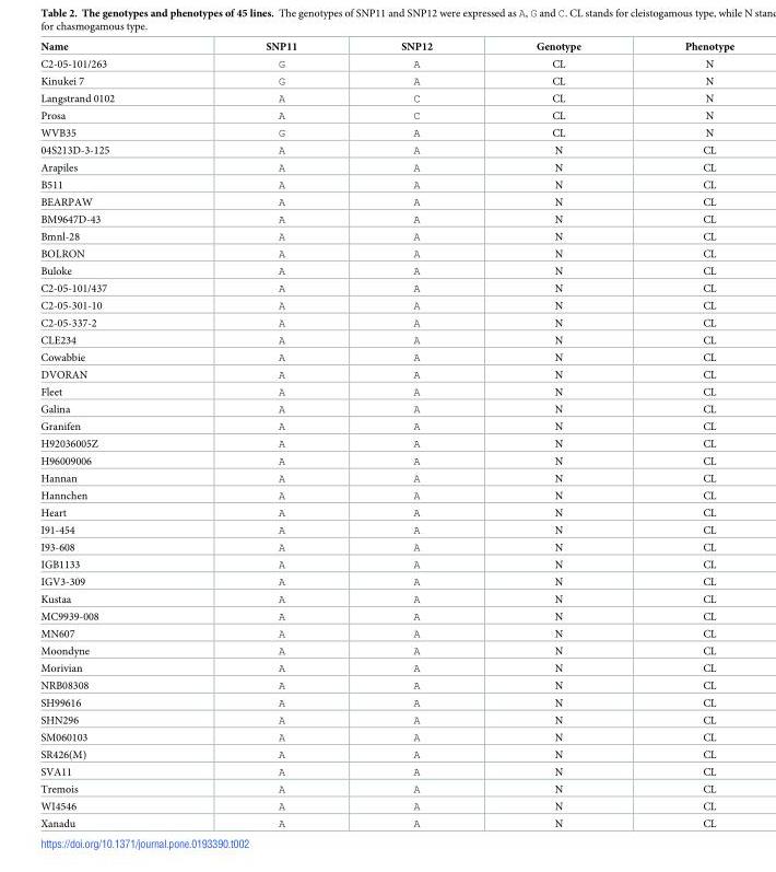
<table><thead><tr><td>Name</td><td>SNP11</td><td>SNP12</td><td>Genotype</td><td>Phenotype</td></tr></thead><tbody><tr><td>C2-05-101/263</td><td>G</td><td>A</td><td>CL</td><td>N</td></tr><tr><td>Kinukei 7</td><td>G</td><td>A</td><td>CL</td><td>N</td></tr><tr><td>Langstrand 0102</td><td>A</td><td>C</td><td>CL</td><td>N</td></tr><tr><td>Prosa</td><td>A</td><td>C</td><td>CL</td><td>N</td></tr><tr><td>WVB35</td><td>G</td><td>A</td><td>CL</td><td>N</td></tr><tr><td>04S213D-3-125</td><td>A</td><td>A</td><td>N</td><td>CL</td></tr><tr><td>Arapiles</td><td>A</td><td>A</td><td>N</td><td>CL</td></tr><tr><td>B511</td><td>A</td><td>A</td><td>N</td><td>CL</td></tr><tr><td>BEARPAW</td><td>A</td><td>A</td><td>N</td><td>CL</td></tr><tr><td>BM9647D-43</td><td>A</td><td>A</td><td>N</td><td>CL</td></tr><tr><td>Bmnl-28</td><td>A</td><td>A</td><td>N</td><td>CL</td></tr><tr><td>BOLRON</td><td>A</td><td>A</td><td>N</td><td>CL</td></tr><tr><td>Buloke</td><td>A</td><td>A</td><td>N</td><td>CL</td></tr><tr><td>C2-05-101/437</td><td>A</td><td>A</td><td>N</td><td>CL</td></tr><tr><td>C2-05-301-10</td><td>A</td><td>A</td><td>N</td><td>CL</td></tr><tr><td>C2-05-337-2</td><td>A</td><td>A</td><td>N</td><td>CL</td></tr><tr><td>CLE234</td><td>A</td><td>A</td><td>N</td><td>CL</td></tr><tr><td>Cowabbie</td><td>A</td><td>A</td><td>N</td><td>CL</td></tr><tr><td>DVORAN</td><td>A</td><td>A</td><td>N</td><td>CL</td></tr><tr><td>Fleet</td><td>A</td><td>A</td><td>N</td><td>CL</td></tr><tr><td>Galina</td><td>A</td><td>A</td><td>N</td><td>CL</td></tr><tr><td>Granifen</td><td>A</td><td>A</td><td>N</td><td>CL</td></tr><tr><td>H92036005Z</td><td>A</td><td>A</td><td>N</td><td>CL</td></tr><tr><td>H96009006</td><td>A</td><td>A</td><td>N</td><td>CL</td></tr><tr><td>Hannan</td><td>A</td><td>A</td><td>N</td><td>CL</td></tr><tr><td>Hannchen</td><td>A</td><td>A</td><td>N</td><td>CL</td></tr><tr><td>Heart</td><td>A</td><td>A</td><td>N</td><td>CL</td></tr><tr><td>I91-454</td><td>A</td><td>A</td><td>N</td><td>CL</td></tr><tr><td>I93-608</td><td>A</td><td>A</td><td>N</td><td>CL</td></tr><tr><td>IGB1133</td><td>A</td><td>A</td><td>N</td><td>CL</td></tr><tr><td>IGV3-309</td><td>A</td><td>A</td><td>N</td><td>CL</td></tr><tr><td>Kustaa</td><td>A</td><td>A</td><td>N</td><td>CL</td></tr><tr><td>MC9939-008</td><td>A</td><td>A</td><td>N</td><td>CL</td></tr><tr><td>MN607</td><td>A</td><td>A</td><td>N</td><td>CL</td></tr><tr><td>Moondyne</td><td>A</td><td>A</td><td>N</td><td>CL</td></tr><tr><td>Morivian</td><td>A</td><td>A</td><td>N</td><td>CL</td></tr><tr><td>NRB08308</td><td>A</td><td>A</td><td>N</td><td>CL</td></tr><tr><td>SH99616</td><td>A</td><td>A</td><td>N</td><td>CL</td></tr><tr><td>SHN296</td><td>A</td><td>A</td><td>N</td><td>CL</td></tr><tr><td>SM060103</td><td>A</td><td>A</td><td>N</td><td>CL</td></tr><tr><td>SR426(M)</td><td>A</td><td>A</td><td>N</td><td>CL</td></tr><tr><td>SVA11</td><td>A</td><td>A</td><td>N</td><td>CL</td></tr><tr><td>Tremois</td><td>A</td><td>A</td><td>N</td><td>CL</td></tr><tr><td>WI4546</td><td>A</td><td>A</td><td>N</td><td>CL</td></tr><tr><td>Xanadu</td><td>A</td><td>A</td><td>N</td><td>CL</td></tr></tbody></table>